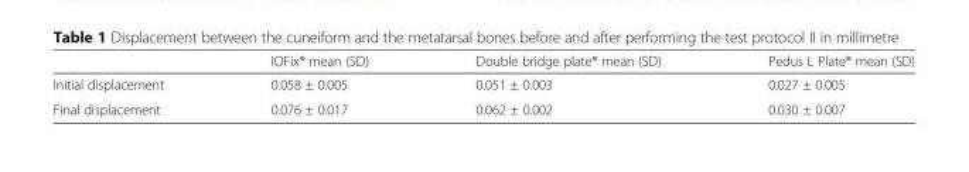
<table><thead><tr><td></td><td>IOFix® mean (SD)</td><td>Double bridge plate® mean (SD)</td><td>Pedus L Plate® mean (SD)</td></tr></thead><tbody><tr><td>Initial displacement</td><td>0.058 ± 0.005</td><td>0.051 ± 0.003</td><td>0.027 ± 0.005</td></tr><tr><td>Final displacement</td><td>0.076 ± 0.017</td><td>0.062 ± 0.002</td><td>0.030 ± 0.007</td></tr></tbody></table>